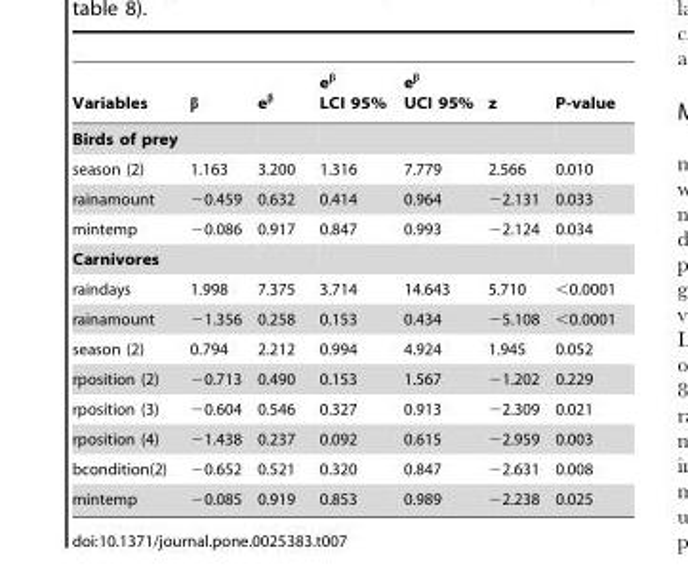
<table><thead><tr><td>Variables</td><td>β</td><td>e<sup>β</sup></td><td>e<sup>β</sup> LCI 95%</td><td>e<sup>β</sup> UCI 95%</td><td>z</td><td>P-value</td></tr></thead><tbody><tr><td colspan="7">Birds of prey</td></tr><tr><td>season (2)</td><td>1.163</td><td>3.200</td><td>1.316</td><td>7.779</td><td>2.566</td><td>0.010</td></tr><tr><td>rainamount</td><td>−0.459</td><td>0.632</td><td>0.414</td><td>0.964</td><td>−2.131</td><td>0.033</td></tr><tr><td>mintemp</td><td>−0.086</td><td>0.917</td><td>0.847</td><td>0.993</td><td>−2.124</td><td>0.034</td></tr><tr><td colspan="7">Carnivores</td></tr><tr><td>raindays</td><td>1.998</td><td>7.375</td><td>3.714</td><td>14.643</td><td>5.710</td><td>&lt;0.0001</td></tr><tr><td>rainamount</td><td>−1.356</td><td>0.258</td><td>0.153</td><td>0.434</td><td>−5.108</td><td>&lt;0.0001</td></tr><tr><td>season (2)</td><td>0.794</td><td>2.212</td><td>0.994</td><td>4.924</td><td>1.945</td><td>0.052</td></tr><tr><td>rposition (2)</td><td>−0.713</td><td>0.490</td><td>0.153</td><td>1.567</td><td>−1.202</td><td>0.229</td></tr><tr><td>rposition (3)</td><td>−0.604</td><td>0.546</td><td>0.327</td><td>0.913</td><td>−2.309</td><td>0.021</td></tr><tr><td>rposition (4)</td><td>−1.438</td><td>0.237</td><td>0.092</td><td>0.615</td><td>−2.959</td><td>0.003</td></tr><tr><td>bcondition(2)</td><td>−0.652</td><td>0.521</td><td>0.320</td><td>0.847</td><td>−2.631</td><td>0.008</td></tr><tr><td>mintemp</td><td>−0.085</td><td>0.919</td><td>0.853</td><td>0.989</td><td>−2.238</td><td>0.025</td></tr></tbody></table>